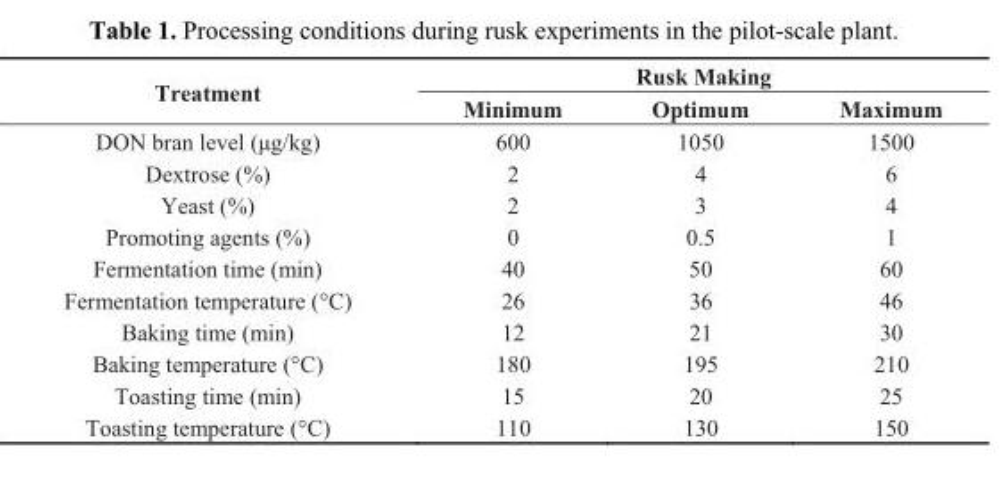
<table><thead><tr><td rowspan="2">Treatment</td><td colspan="3">Rusk Making</td></tr><tr><td>Minimum</td><td>Optimum</td><td>Maximum</td></tr></thead><tbody><tr><td>DON bran level (μg/kg)</td><td>600</td><td>1050</td><td>1500</td></tr><tr><td>Dextrose (%)</td><td>2</td><td>4</td><td>6</td></tr><tr><td>Yeast (%)</td><td>2</td><td>3</td><td>4</td></tr><tr><td>Promoting agents (%)</td><td>0</td><td>0.5</td><td>1</td></tr><tr><td>Fermentation time (min)</td><td>40</td><td>50</td><td>60</td></tr><tr><td>Fermentation temperature (°C)</td><td>26</td><td>36</td><td>46</td></tr><tr><td>Baking time (min)</td><td>12</td><td>21</td><td>30</td></tr><tr><td>Baking temperature (°C)</td><td>180</td><td>195</td><td>210</td></tr><tr><td>Toasting time (min)</td><td>15</td><td>20</td><td>25</td></tr><tr><td>Toasting temperature (°C)</td><td>110</td><td>130</td><td>150</td></tr></tbody></table>